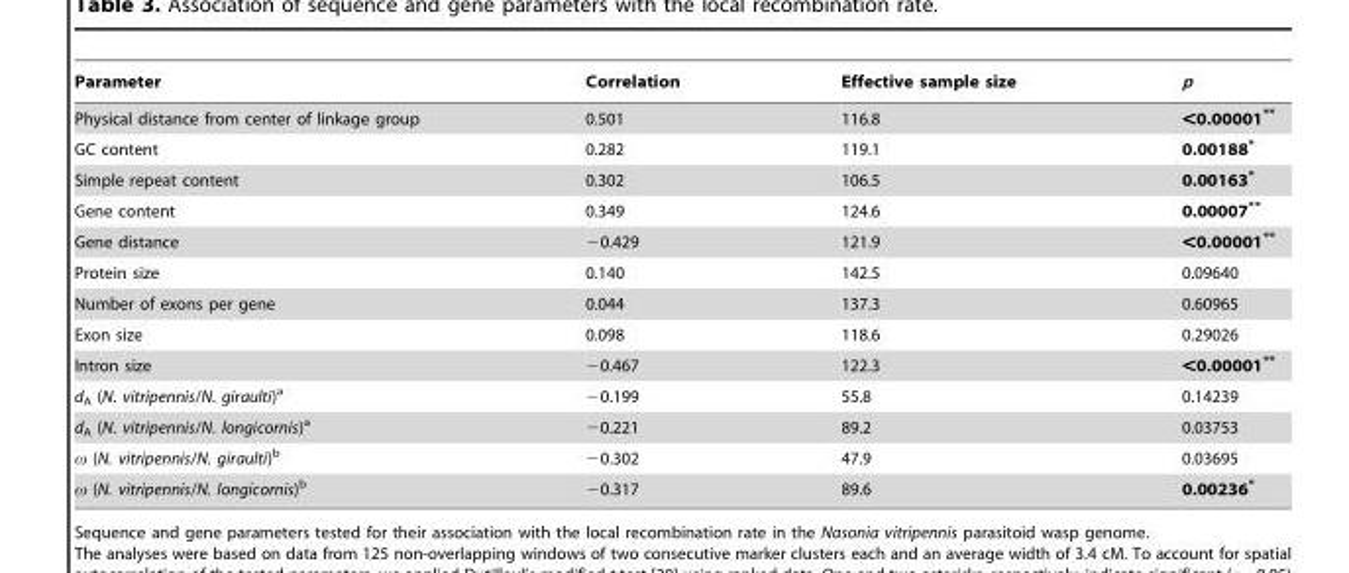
<table><thead><tr><td>Parameter</td><td>Correlation</td><td>Effective sample size</td><td>p</td></tr></thead><tbody><tr><td>Physical distance from center of linkage group</td><td>0.501</td><td>116.8</td><td>&lt;0.00001**</td></tr><tr><td>GC content</td><td>0.282</td><td>119.1</td><td>0.00188*</td></tr><tr><td>Simple repeat content</td><td>0.302</td><td>106.5</td><td>0.00163*</td></tr><tr><td>Gene content</td><td>0.349</td><td>124.6</td><td>0.00007**</td></tr><tr><td>Gene distance</td><td>−0.429</td><td>121.9</td><td>&lt;0.00001**</td></tr><tr><td>Protein size</td><td>0.140</td><td>142.5</td><td>0.09640</td></tr><tr><td>Number of exons per gene</td><td>0.044</td><td>137.3</td><td>0.60965</td></tr><tr><td>Exon size</td><td>0.098</td><td>118.6</td><td>0.29026</td></tr><tr><td>Intron size</td><td>−0.467</td><td>122.3</td><td>&lt;0.00001**</td></tr><tr><td>d<sub>A</sub> (N. vitripennis/N. giraulti)<sup>a</sup></td><td>−0.199</td><td>55.8</td><td>0.14239</td></tr><tr><td>d<sub>A</sub> (N. vitripennis/N. longicornis)<sup>a</sup></td><td>−0.221</td><td>89.2</td><td>0.03753</td></tr><tr><td>ω (N. vitripennis/N. giraulti)<sup>b</sup></td><td>−0.302</td><td>47.9</td><td>0.03695</td></tr><tr><td>ω (N. vitripennis/N. longicornis)<sup>b</sup></td><td>−0.317</td><td>89.6</td><td>0.00236*</td></tr></tbody></table>